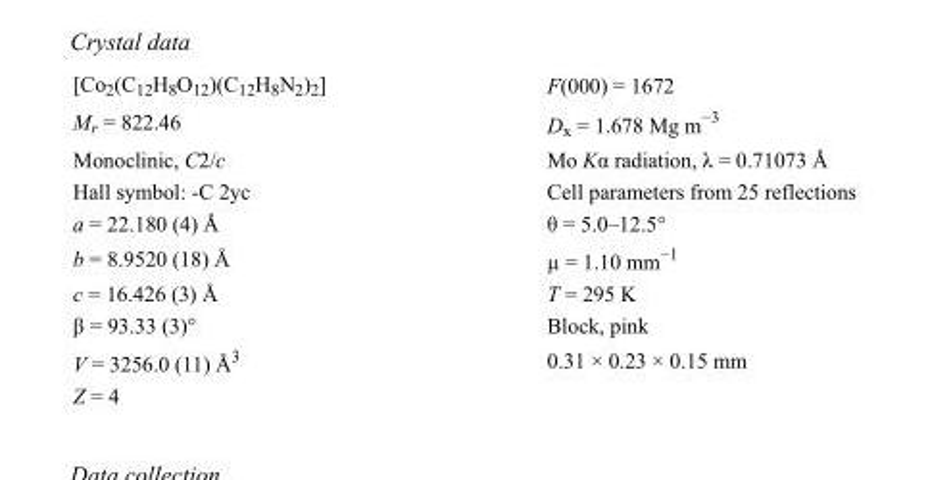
<table><tbody><tr><td>[Co<sub>2</sub>(C<sub>12</sub>H<sub>8</sub>O<sub>12</sub>)(C<sub>12</sub>H<sub>8</sub>N<sub>2</sub>)<sub>2</sub>]</td><td>F(000) = 1672</td></tr><tr><td>M<sub>r</sub> = 822.46</td><td>D<sub>x</sub> = 1.678 Mg m<sup>−3</sup></td></tr><tr><td>Monoclinic, C2/c</td><td>Mo Kα radiation, λ = 0.71073 Å</td></tr><tr><td>Hall symbol: -C 2yc</td><td>Cell parameters from 25 reflections</td></tr><tr><td>a = 22.180 (4) Å</td><td>θ = 5.0–12.5°</td></tr><tr><td>b = 8.9520 (18) Å</td><td>µ = 1.10 mm<sup>−1</sup></td></tr><tr><td>c = 16.426 (3) Å</td><td>T = 295 K</td></tr><tr><td>β = 93.33 (3)°</td><td>Block, pink</td></tr><tr><td>V = 3256.0 (11) Å<sup>3</sup></td><td>0.31 × 0.23 × 0.15 mm</td></tr><tr><td>Z = 4</td><td></td></tr></tbody></table>